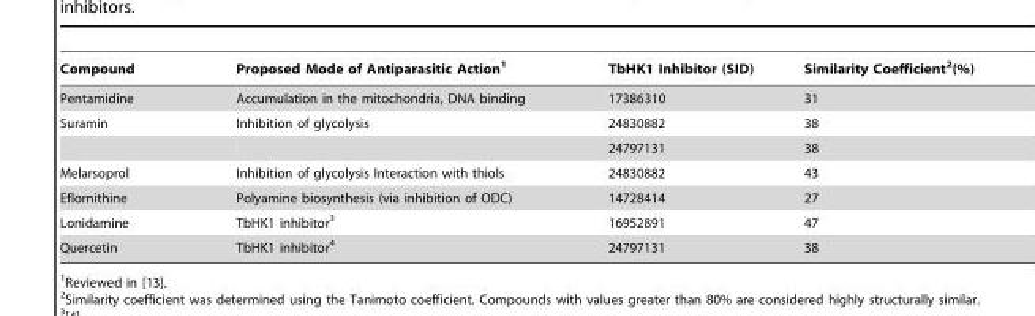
<table><thead><tr><td>Compound</td><td>Proposed Mode of Antiparasitic Action<sup>1</sup></td><td>TbHK1 Inhibitor (SID)</td><td>Similarity Coefficient<sup>2</sup>(%)</td></tr></thead><tbody><tr><td>Pentamidine</td><td>Accumulation in the mitochondria, DNA binding</td><td>17386310</td><td>31</td></tr><tr><td rowspan="2">Suramin</td><td>Inhibition of glycolysis</td><td>24830882</td><td>38</td></tr><tr><td></td><td>24797131</td><td>38</td></tr><tr><td>Melarsoprol</td><td>Inhibition of glycolysis Interaction with thiols</td><td>24830882</td><td>43</td></tr><tr><td>Eflornithine</td><td>Polyamine biosynthesis (via inhibition of ODC)</td><td>14728414</td><td>27</td></tr><tr><td>Lonidamine</td><td>TbHK1 inhibitor<sup>3</sup></td><td>16952891</td><td>47</td></tr><tr><td>Quercetin</td><td>TbHK1 inhibitor<sup>4</sup></td><td>24797131</td><td>38</td></tr></tbody></table>